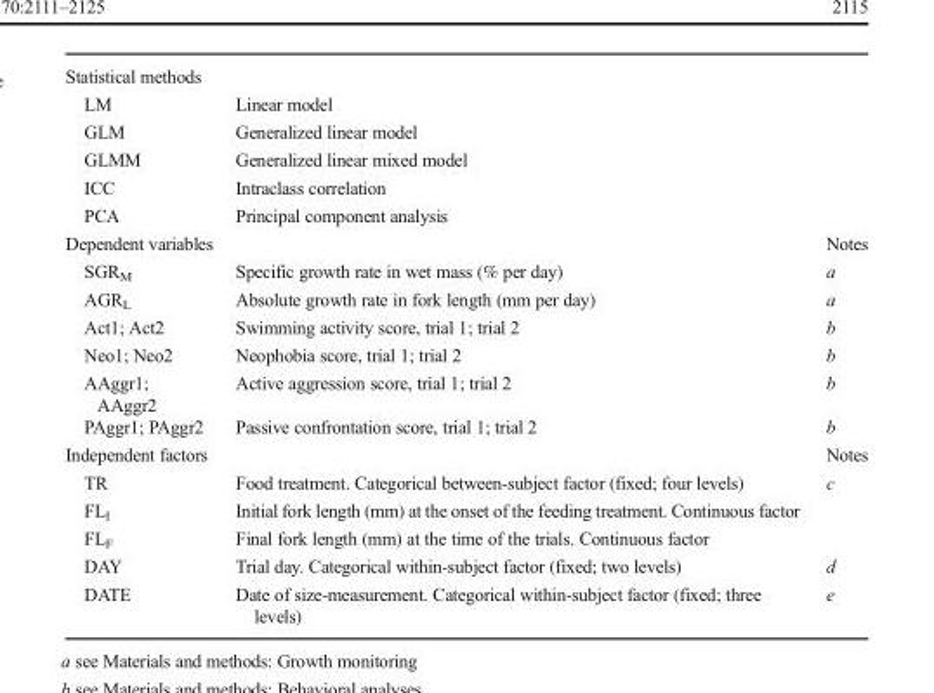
<table><tbody><tr><td colspan="3">Statistical methods</td></tr><tr><td>LM</td><td>Linear model</td><td></td></tr><tr><td>GLM</td><td>Generalized linear model</td><td></td></tr><tr><td>GLMM</td><td>Generalized linear mixed model</td><td></td></tr><tr><td>ICC</td><td>Intraclass correlation</td><td></td></tr><tr><td>PCA</td><td>Principal component analysis</td><td></td></tr><tr><td colspan="2">Dependent variables</td><td>Notes</td></tr><tr><td>SGR<sub>M</sub></td><td>Specific growth rate in wet mass (% per day)</td><td>a</td></tr><tr><td>AGR<sub>L</sub></td><td>Absolute growth rate in fork length (mm per day)</td><td>a</td></tr><tr><td>Act1; Act2</td><td>Swimming activity score, trial 1; trial 2</td><td>b</td></tr><tr><td>Neo1; Neo2</td><td>Neophobia score, trial 1; trial 2</td><td>b</td></tr><tr><td>AAggr1; AAggr2</td><td>Active aggression score, trial 1; trial 2</td><td>b</td></tr><tr><td>PAggr1; PAggr2</td><td>Passive confrontation score, trial 1; trial 2</td><td>b</td></tr><tr><td colspan="2">Independent factors</td><td>Notes</td></tr><tr><td>TR</td><td>Food treatment. Categorical between-subject factor (fixed; four levels)</td><td>c</td></tr><tr><td>FL<sub>I</sub></td><td>Initial fork length (mm) at the onset of the feeding treatment. Continuous factor</td><td></td></tr><tr><td>FL<sub>F</sub></td><td>Final fork length (mm) at the time of the trials. Continuous factor</td><td></td></tr><tr><td>DAY</td><td>Trial day. Categorical within-subject factor (fixed; two levels)</td><td>d</td></tr><tr><td>DATE</td><td>Date of size-measurement. Categorical within-subject factor (fixed; three levels)</td><td>e</td></tr></tbody></table>